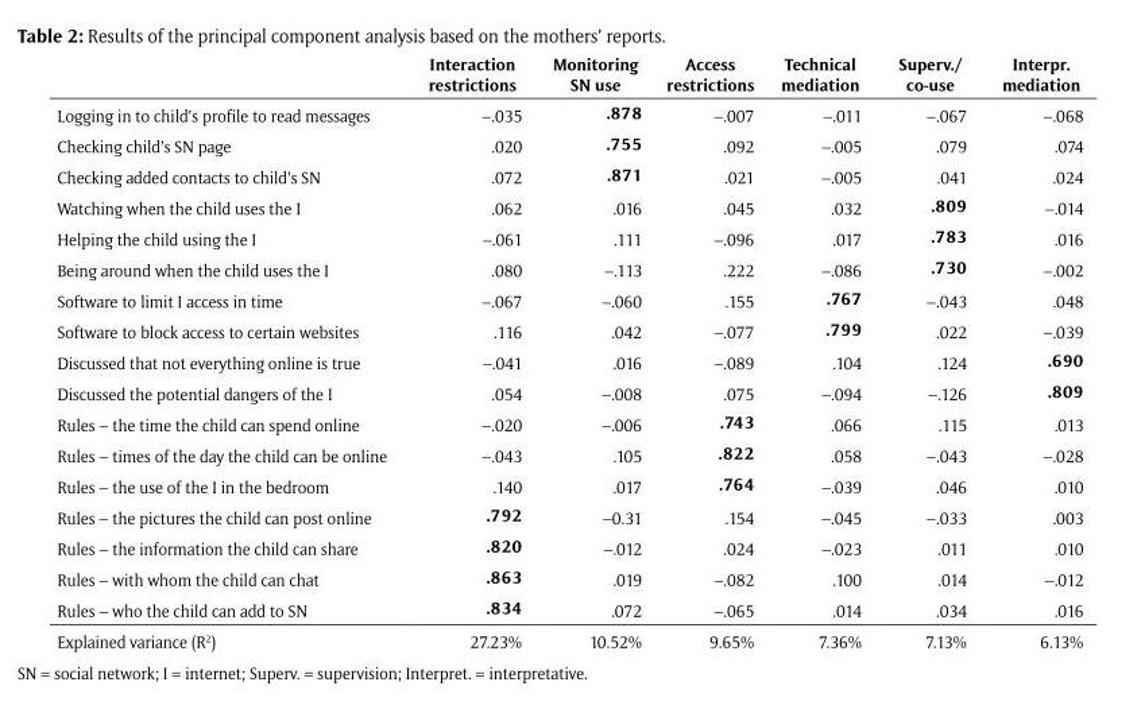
<table><thead><tr><td></td><td>Interaction restrictions</td><td>Monitoring SN use</td><td>Access restrictions</td><td>Technical mediation</td><td>Superv./ co-use</td><td>Interpr. mediation</td></tr></thead><tbody><tr><td>Logging in to child’s profile to read messages</td><td>–.035</td><td>.878</td><td>–.007</td><td>–.011</td><td>–.067</td><td>–.068</td></tr><tr><td>Checking child’s SN page</td><td>.020</td><td>.755</td><td>.092</td><td>–.005</td><td>.079</td><td>.074</td></tr><tr><td>Checking added contacts to child’s SN</td><td>.072</td><td>.871</td><td>.021</td><td>–.005</td><td>.041</td><td>.024</td></tr><tr><td>Watching when the child uses the I</td><td>.062</td><td>.016</td><td>.045</td><td>.032</td><td>.809</td><td>–.014</td></tr><tr><td>Helping the child using the I</td><td>–.061</td><td>.111</td><td>–.096</td><td>.017</td><td>.783</td><td>.016</td></tr><tr><td>Being around when the child uses the I</td><td>.080</td><td>–.113</td><td>.222</td><td>–.086</td><td>.730</td><td>–.002</td></tr><tr><td>Software to limit I access in time</td><td>–.067</td><td>–.060</td><td>.155</td><td>.767</td><td>–.043</td><td>.048</td></tr><tr><td>Software to block access to certain websites</td><td>.116</td><td>.042</td><td>–.077</td><td>.799</td><td>.022</td><td>–.039</td></tr><tr><td>Discussed that not everything online is true</td><td>–.041</td><td>.016</td><td>–.089</td><td>.104</td><td>.124</td><td>.690</td></tr><tr><td>Discussed the potential dangers of the I</td><td>.054</td><td>–.008</td><td>.075</td><td>–.094</td><td>–.126</td><td>.809</td></tr><tr><td>Rules – the time the child can spend online</td><td>–.020</td><td>–.006</td><td>.743</td><td>.066</td><td>.115</td><td>.013</td></tr><tr><td>Rules – times of the day the child can be online</td><td>–.043</td><td>.105</td><td>.822</td><td>.058</td><td>–.043</td><td>–.028</td></tr><tr><td>Rules – the use of the I in the bedroom</td><td>.140</td><td>.017</td><td>.764</td><td>–.039</td><td>.046</td><td>.010</td></tr><tr><td>Rules – the pictures the child can post online</td><td>.792</td><td>–0.31</td><td>.154</td><td>–.045</td><td>–.033</td><td>.003</td></tr><tr><td>Rules – the information the child can share</td><td>.820</td><td>–.012</td><td>.024</td><td>–.023</td><td>.011</td><td>.010</td></tr><tr><td>Rules – with whom the child can chat</td><td>.863</td><td>.019</td><td>–.082</td><td>.100</td><td>.014</td><td>–.012</td></tr><tr><td>Rules – who the child can add to SN</td><td>.834</td><td>.072</td><td>–.065</td><td>.014</td><td>.034</td><td>.016</td></tr><tr><td>Explained variance (R<sup>2</sup>)</td><td>27.23%</td><td>10.52%</td><td>9.65%</td><td>7.36%</td><td>7.13%</td><td>6.13%</td></tr></tbody></table>